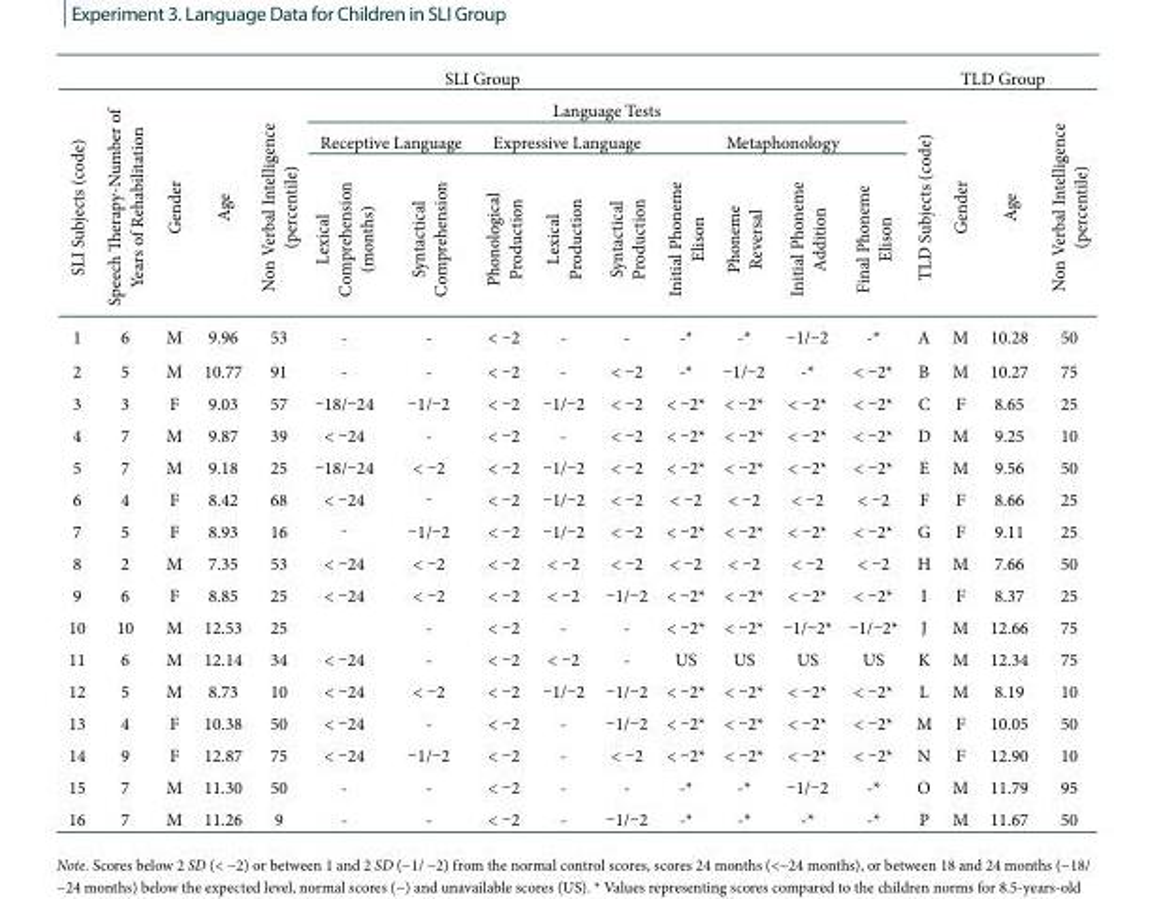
<table><thead><tr><td colspan="14">SLI Group</td><td colspan="4">TLD Group</td></tr><tr><td rowspan="3">SLI Subjects (code)</td><td rowspan="3">Speech Therapy-Number of Years of Rehabilitation</td><td rowspan="3">Gender</td><td rowspan="3">Age</td><td rowspan="3">Non Verbal Intelligence (percentile)</td><td colspan="9">Language Tests</td><td rowspan="3">TLD Subjects (code)</td><td rowspan="3">Gender</td><td rowspan="3">Age</td><td rowspan="3">Non Verbal Intelligence (percentile)</td></tr><tr><td colspan="2">Receptive Language</td><td colspan="3">Expressive Language</td><td colspan="4">Metaphonology</td></tr><tr><td>Lexical Comprehension (months)</td><td>Syntactical Comprehension</td><td>Phonological Production</td><td>Lexical Production</td><td>Syntactical Production</td><td>Initial Phoneme Elison</td><td>Phoneme Reversal</td><td>Initial Phoneme Addition</td><td>Final Phoneme Elison</td></tr></thead><tbody><tr><td>1</td><td>6</td><td>M</td><td>9.96</td><td>53</td><td>-</td><td>-</td><td>&lt; –2</td><td>-</td><td>-</td><td>-*</td><td>-*</td><td>–1/–2</td><td>-*</td><td>A</td><td>M</td><td>10.28</td><td>50</td></tr><tr><td>2</td><td>5</td><td>M</td><td>10.77</td><td>91</td><td>-</td><td>-</td><td>&lt; –2</td><td>-</td><td>&lt; –2</td><td>-*</td><td>–1/–2</td><td>-*</td><td>&lt; –2*</td><td>B</td><td>M</td><td>10.27</td><td>75</td></tr><tr><td>3</td><td>3</td><td>F</td><td>9.03</td><td>57</td><td>–18/–24</td><td>–1/–2</td><td>&lt; –2</td><td>–1/–2</td><td>&lt; –2</td><td>&lt; –2*</td><td>&lt; –2*</td><td>&lt; –2*</td><td>&lt; –2*</td><td>C</td><td>F</td><td>8.65</td><td>25</td></tr><tr><td>4</td><td>7</td><td>M</td><td>9.87</td><td>39</td><td>&lt; –24</td><td>-</td><td>&lt; –2</td><td>-</td><td>&lt; –2</td><td>&lt; –2*</td><td>&lt; –2*</td><td>&lt; –2*</td><td>&lt; –2*</td><td>D</td><td>M</td><td>9.25</td><td>10</td></tr><tr><td>5</td><td>7</td><td>M</td><td>9.18</td><td>25</td><td>–18/–24</td><td>&lt; –2</td><td>&lt; –2</td><td>–1/–2</td><td>&lt; –2</td><td>&lt; –2*</td><td>&lt; –2*</td><td>&lt; –2*</td><td>&lt; –2*</td><td>E</td><td>M</td><td>9.56</td><td>50</td></tr><tr><td>6</td><td>4</td><td>F</td><td>8.42</td><td>68</td><td>&lt; –24</td><td>-</td><td>&lt; –2</td><td>–1/–2</td><td>&lt; –2</td><td>&lt; –2</td><td>&lt; –2</td><td>&lt; –2</td><td>&lt; –2</td><td>F</td><td>F</td><td>8.66</td><td>25</td></tr><tr><td>7</td><td>5</td><td>F</td><td>8.93</td><td>16</td><td>-</td><td>–1/–2</td><td>&lt; –2</td><td>–1/–2</td><td>&lt; –2</td><td>&lt; –2*</td><td>&lt; –2*</td><td>&lt; –2*</td><td>&lt; –2*</td><td>G</td><td>F</td><td>9.11</td><td>25</td></tr><tr><td>8</td><td>2</td><td>M</td><td>7.35</td><td>53</td><td>&lt; –24</td><td>&lt; –2</td><td>&lt; –2</td><td>&lt; –2</td><td>&lt; –2</td><td>&lt; –2</td><td>&lt; –2</td><td>&lt; –2</td><td>&lt; –2</td><td>H</td><td>M</td><td>7.66</td><td>50</td></tr><tr><td>9</td><td>6</td><td>F</td><td>8.85</td><td>25</td><td>&lt; –24</td><td>&lt; –2</td><td>&lt; –2</td><td>&lt; –2</td><td>–1/–2</td><td>&lt; –2*</td><td>&lt; –2*</td><td>&lt; –2*</td><td>&lt; –2*</td><td>I</td><td>F</td><td>8.37</td><td>25</td></tr><tr><td>10</td><td>10</td><td>M</td><td>12.53</td><td>25</td><td></td><td>-</td><td>&lt; –2</td><td>-</td><td>-</td><td>&lt; –2*</td><td>&lt; –2*</td><td>–1/–2*</td><td>–1/–2*</td><td>J</td><td>M</td><td>12.66</td><td>75</td></tr><tr><td>11</td><td>6</td><td>M</td><td>12.14</td><td>34</td><td>&lt; –24</td><td>-</td><td>&lt; –2</td><td>&lt; –2</td><td>-</td><td>US</td><td>US</td><td>US</td><td>US</td><td>K</td><td>M</td><td>12.34</td><td>75</td></tr><tr><td>12</td><td>5</td><td>M</td><td>8.73</td><td>10</td><td>&lt; –24</td><td>&lt; –2</td><td>&lt; –2</td><td>–1/–2</td><td>–1/–2</td><td>&lt; –2*</td><td>&lt; –2*</td><td>&lt; –2*</td><td>&lt; –2*</td><td>L</td><td>M</td><td>8.19</td><td>10</td></tr><tr><td>13</td><td>4</td><td>F</td><td>10.38</td><td>50</td><td>&lt; –24</td><td>-</td><td>&lt; –2</td><td>-</td><td>–1/–2</td><td>&lt; –2*</td><td>&lt; –2*</td><td>&lt; –2*</td><td>&lt; –2*</td><td>M</td><td>F</td><td>10.05</td><td>50</td></tr><tr><td>14</td><td>9</td><td>F</td><td>12.87</td><td>75</td><td>&lt; –24</td><td>–1/–2</td><td>&lt; –2</td><td>-</td><td>&lt; –2</td><td>&lt; –2*</td><td>&lt; –2*</td><td>&lt; –2*</td><td>&lt; –2*</td><td>N</td><td>F</td><td>12.90</td><td>10</td></tr><tr><td>15</td><td>7</td><td>M</td><td>11.30</td><td>50</td><td>-</td><td>-</td><td>&lt; –2</td><td>-</td><td>-</td><td>-*</td><td>-*</td><td>–1/–2</td><td>-*</td><td>O</td><td>M</td><td>11.79</td><td>95</td></tr><tr><td>16</td><td>7</td><td>M</td><td>11.26</td><td>9</td><td>-</td><td>-</td><td>&lt; –2</td><td>-</td><td>–1/–2</td><td>-*</td><td>-*</td><td>-*</td><td>-*</td><td>P</td><td>M</td><td>11.67</td><td>50</td></tr></tbody></table>